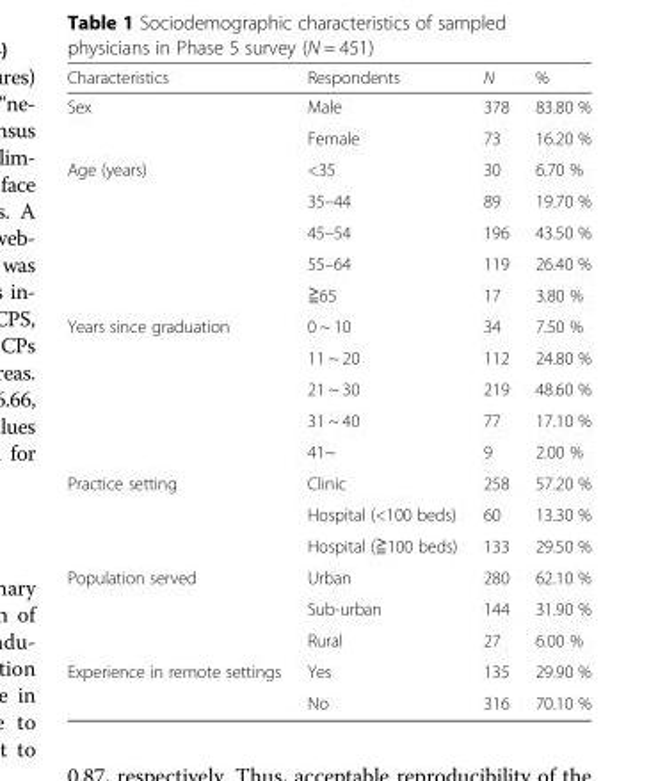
<table><thead><tr><td>Characteristics</td><td>Respondents</td><td>N</td><td>%</td></tr></thead><tbody><tr><td rowspan="2">Sex</td><td>Male</td><td>378</td><td>83.80 %</td></tr><tr><td>Female</td><td>73</td><td>16.20 %</td></tr><tr><td rowspan="5">Age (years)</td><td>&lt;35</td><td>30</td><td>6.70 %</td></tr><tr><td>35–44</td><td>89</td><td>19.70 %</td></tr><tr><td>45–54</td><td>196</td><td>43.50 %</td></tr><tr><td>55–64</td><td>119</td><td>26.40 %</td></tr><tr><td>≧65</td><td>17</td><td>3.80 %</td></tr><tr><td rowspan="5">Years since graduation</td><td>0 ~ 10</td><td>34</td><td>7.50 %</td></tr><tr><td>11 ~ 20</td><td>112</td><td>24.80 %</td></tr><tr><td>21 ~ 30</td><td>219</td><td>48.60 %</td></tr><tr><td>31 ~ 40</td><td>77</td><td>17.10 %</td></tr><tr><td>41~</td><td>9</td><td>2.00 %</td></tr><tr><td rowspan="3">Practice setting</td><td>Clinic</td><td>258</td><td>57.20 %</td></tr><tr><td>Hospital (&lt;100 beds)</td><td>60</td><td>13.30 %</td></tr><tr><td>Hospital (≧100 beds)</td><td>133</td><td>29.50 %</td></tr><tr><td rowspan="3">Population served</td><td>Urban</td><td>280</td><td>62.10 %</td></tr><tr><td>Sub-urban</td><td>144</td><td>31.90 %</td></tr><tr><td>Rural</td><td>27</td><td>6.00 %</td></tr><tr><td rowspan="2">Experience in remote settings</td><td>Yes</td><td>135</td><td>29.90 %</td></tr><tr><td>No</td><td>316</td><td>70.10 %</td></tr></tbody></table>